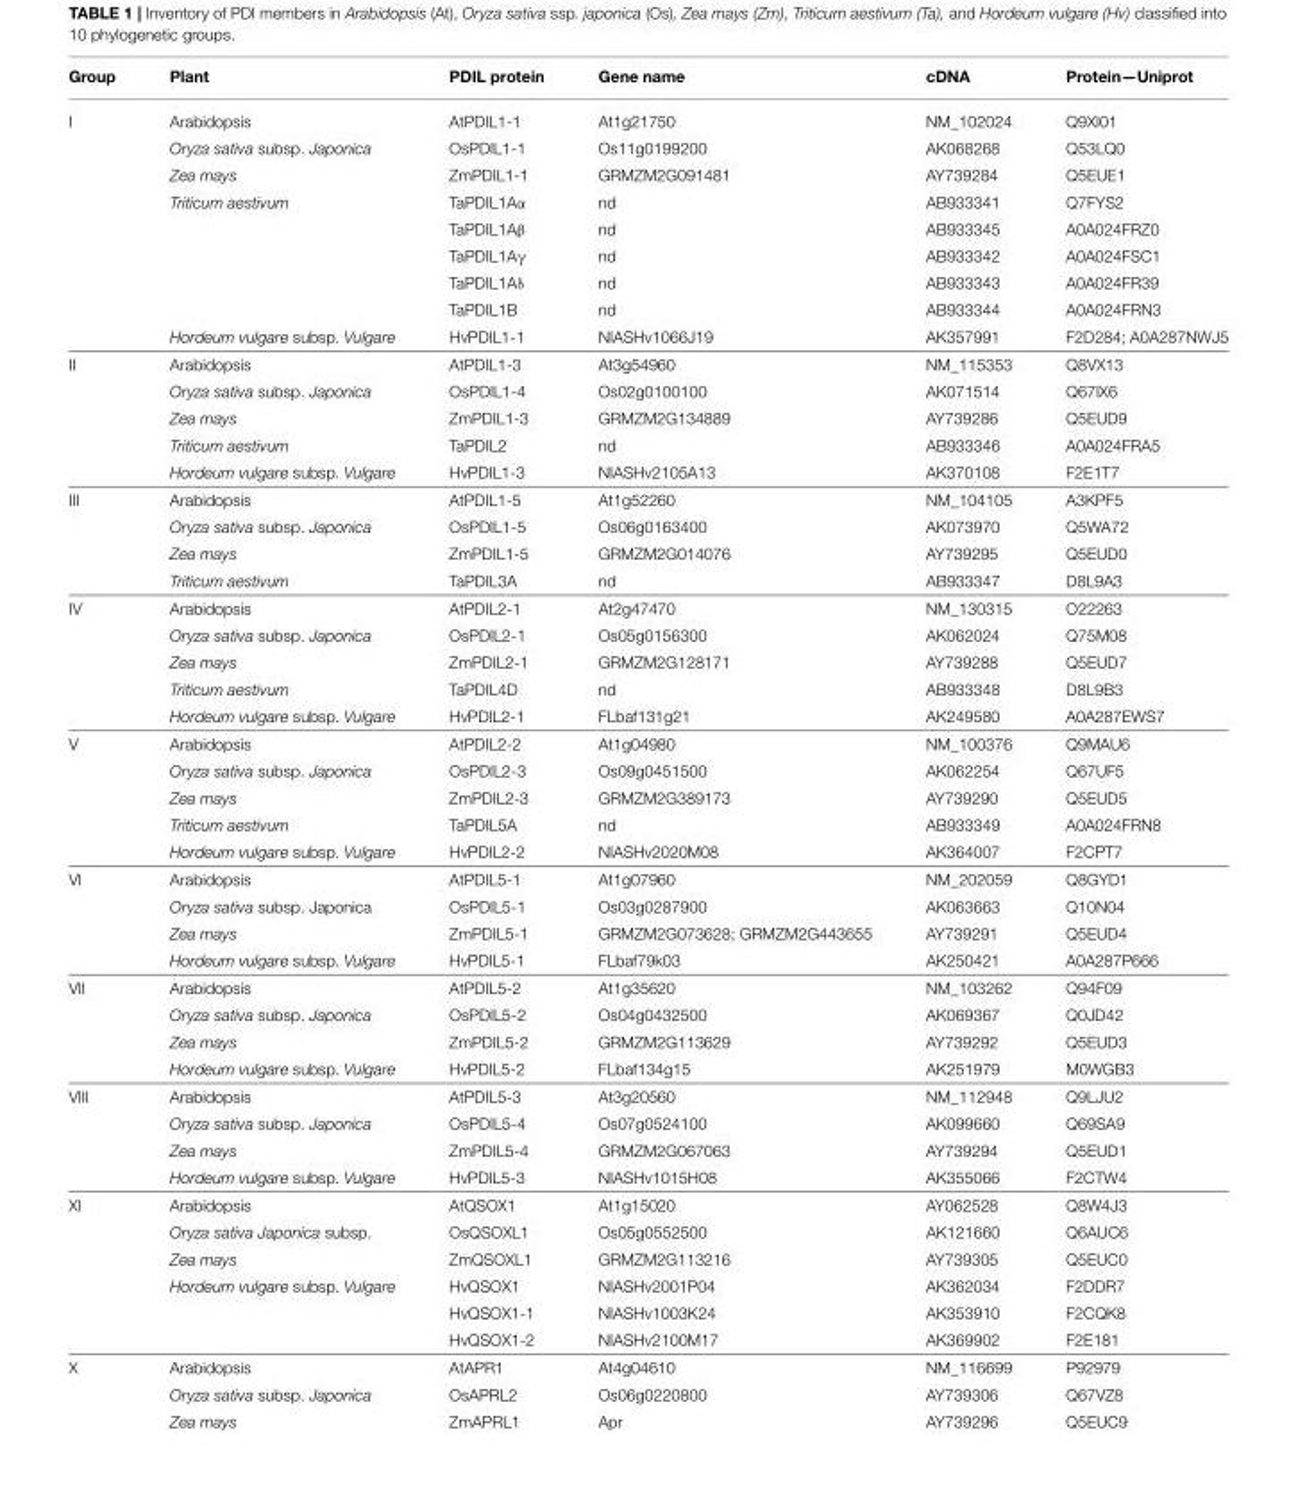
<table><thead><tr><td>Group</td><td>Plant</td><td>PDIL protein</td><td>Gene name</td><td>cDNA</td><td>Protein—Uniprot</td></tr></thead><tbody><tr><td rowspan="9">I</td><td>Arabidopsis</td><td>AtPDIL1-1</td><td>At1g21750</td><td>NM_102024</td><td>Q9XI01</td></tr><tr><td>Oryza sativa subsp. Japonica</td><td>OsPDIL1-1</td><td>Os11g0199200</td><td>AK068268</td><td>Q53LQ0</td></tr><tr><td>Zea mays</td><td>ZmPDIL1-1</td><td>GRMZM2G091481</td><td>AY739284</td><td>Q5EUE1</td></tr><tr><td>Triticum aestivum</td><td>TaPDIL1Aα</td><td>nd</td><td>AB933341</td><td>Q7FYS2</td></tr><tr><td></td><td>TaPDIL1Aβ</td><td>nd</td><td>AB933345</td><td>A0A024FRZ0</td></tr><tr><td></td><td>TaPDIL1Aγ</td><td>nd</td><td>AB933342</td><td>A0A024FSC1</td></tr><tr><td></td><td>TaPDIL1Aδ</td><td>nd</td><td>AB933343</td><td>A0A024FR39</td></tr><tr><td></td><td>TaPDIL1B</td><td>nd</td><td>AB933344</td><td>A0A024FRN3</td></tr><tr><td>Hordeum vulgare subsp. Vulgare</td><td>HvPDIL1-1</td><td>NIASHv1066J19</td><td>AK357991</td><td>F2D284; A0A287NWJ5</td></tr><tr><td rowspan="5">II</td><td>Arabidopsis</td><td>AtPDIL1-3</td><td>At3g54960</td><td>NM_115353</td><td>Q8VX13</td></tr><tr><td>Oryza sativa subsp. Japonica</td><td>OsPDIL1-4</td><td>Os02g0100100</td><td>AK071514</td><td>Q67IX6</td></tr><tr><td>Zea mays</td><td>ZmPDIL1-3</td><td>GRMZM2G134889</td><td>AY739286</td><td>Q5EUD9</td></tr><tr><td>Triticum aestivum</td><td>TaPDIL2</td><td>nd</td><td>AB933346</td><td>A0A024FRA5</td></tr><tr><td>Hordeum vulgare subsp. Vulgare</td><td>HvPDIL1-3</td><td>NIASHv2105A13</td><td>AK370108</td><td>F2E1T7</td></tr><tr><td rowspan="4">III</td><td>Arabidopsis</td><td>AtPDIL1-5</td><td>At1g52260</td><td>NM_104105</td><td>A3KPF5</td></tr><tr><td>Oryza sativa subsp. Japonica</td><td>OsPDIL1-5</td><td>Os06g0163400</td><td>AK073970</td><td>Q5WA72</td></tr><tr><td>Zea mays</td><td>ZmPDIL1-5</td><td>GRMZM2G014076</td><td>AY739295</td><td>Q5EUD0</td></tr><tr><td>Triticum aestivum</td><td>TaPDIL3A</td><td>nd</td><td>AB933347</td><td>D8L9A3</td></tr><tr><td rowspan="5">IV</td><td>Arabidopsis</td><td>AtPDIL2-1</td><td>At2g47470</td><td>NM_130315</td><td>O22263</td></tr><tr><td>Oryza sativa subsp. Japonica</td><td>OsPDIL2-1</td><td>Os05g0156300</td><td>AK062024</td><td>Q75M08</td></tr><tr><td>Zea mays</td><td>ZmPDIL2-1</td><td>GRMZM2G128171</td><td>AY739288</td><td>Q5EUD7</td></tr><tr><td>Triticum aestivum</td><td>TaPDIL4D</td><td>nd</td><td>AB933348</td><td>D8L9B3</td></tr><tr><td>Hordeum vulgare subsp. Vulgare</td><td>HvPDIL2-1</td><td>FLbaf131g21</td><td>AK249580</td><td>A0A287EWS7</td></tr><tr><td rowspan="5">V</td><td>Arabidopsis</td><td>AtPDIL2-2</td><td>At1g04980</td><td>NM_100376</td><td>Q9MAU6</td></tr><tr><td>Oryza sativa subsp. Japonica</td><td>OsPDIL2-3</td><td>Os09g0451500</td><td>AK062254</td><td>Q67UF5</td></tr><tr><td>Zea mays</td><td>ZmPDIL2-3</td><td>GRMZM2G389173</td><td>AY739290</td><td>Q5EUD5</td></tr><tr><td>Triticum aestivum</td><td>TaPDIL5A</td><td>nd</td><td>AB933349</td><td>A0A024FRN8</td></tr><tr><td>Hordeum vulgare subsp. Vulgare</td><td>HvPDIL2-2</td><td>NIASHv2020M08</td><td>AK364007</td><td>F2CPT7</td></tr><tr><td rowspan="4">VI</td><td>Arabidopsis</td><td>AtPDIL5-1</td><td>At1g07960</td><td>NM_202059</td><td>Q8GYD1</td></tr><tr><td>Oryza sativa subsp. Japonica</td><td>OsPDIL5-1</td><td>Os03g0287900</td><td>AK063663</td><td>Q10N04</td></tr><tr><td>Zea mays</td><td>ZmPDIL5-1</td><td>GRMZM2G073628; GRMZM2G443655</td><td>AY739291</td><td>Q5EUD4</td></tr><tr><td>Hordeum vulgare subsp. Vulgare</td><td>HvPDIL5-1</td><td>FLbaf79k03</td><td>AK250421</td><td>A0A287P666</td></tr><tr><td rowspan="4">VII</td><td>Arabidopsis</td><td>AtPDIL5-2</td><td>At1g35620</td><td>NM_103262</td><td>Q94F09</td></tr><tr><td>Oryza sativa subsp. Japonica</td><td>OsPDIL5-2</td><td>Os04g0432500</td><td>AK069367</td><td>Q0JD42</td></tr><tr><td>Zea mays</td><td>ZmPDIL5-2</td><td>GRMZM2G113629</td><td>AY739292</td><td>Q5EUD3</td></tr><tr><td>Hordeum vulgare subsp. Vulgare</td><td>HvPDIL5-2</td><td>FLbaf134g15</td><td>AK251979</td><td>M0WGB3</td></tr><tr><td rowspan="4">VIII</td><td>Arabidopsis</td><td>AtPDIL5-3</td><td>At3g20560</td><td>NM_112948</td><td>Q9LJU2</td></tr><tr><td>Oryza sativa subsp. Japonica</td><td>OsPDIL5-4</td><td>Os07g0524100</td><td>AK099660</td><td>Q69SA9</td></tr><tr><td>Zea mays</td><td>ZmPDIL5-4</td><td>GRMZM2G067063</td><td>AY739294</td><td>Q5EUD1</td></tr><tr><td>Hordeum vulgare subsp. Vulgare</td><td>HvPDIL5-3</td><td>NIASHv1015H08</td><td>AK355066</td><td>F2CTW4</td></tr><tr><td rowspan="6">XI</td><td>Arabidopsis</td><td>AtQSOX1</td><td>At1g15020</td><td>AY062528</td><td>Q8W4J3</td></tr><tr><td>Oryza sativa Japonica subsp.</td><td>OsQSOXL1</td><td>Os05g0552500</td><td>AK121660</td><td>Q6AUC6</td></tr><tr><td>Zea mays</td><td>ZmQSOXL1</td><td>GRMZM2G113216</td><td>AY739305</td><td>Q5EUC0</td></tr><tr><td>Hordeum vulgare subsp. Vulgare</td><td>HvQSOX1</td><td>NIASHv2001P04</td><td>AK362034</td><td>F2DDR7</td></tr><tr><td></td><td>HvQSOX1-1</td><td>NIASHv1003K24</td><td>AK353910</td><td>F2CQK8</td></tr><tr><td></td><td>HvQSOX1-2</td><td>NIASHv2100M17</td><td>AK369902</td><td>F2E181</td></tr><tr><td rowspan="3">X</td><td>Arabidopsis</td><td>AtAPR1</td><td>At4g04610</td><td>NM_116699</td><td>P92979</td></tr><tr><td>Oryza sativa subsp. Japonica</td><td>OsAPRL2</td><td>Os06g0220800</td><td>AY739306</td><td>Q67VZ8</td></tr><tr><td>Zea mays</td><td>ZmAPRL1</td><td>Apr</td><td>AY739296</td><td>Q5EUC9</td></tr></tbody></table>